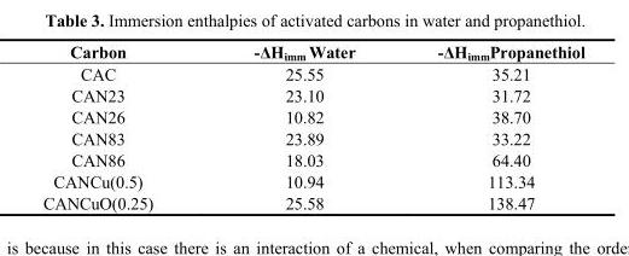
<table><thead><tr><td>Carbon</td><td>-ΔH<sub>imm</sub> Water</td><td>-ΔH<sub>imm</sub>Propanethiol</td></tr></thead><tbody><tr><td>CAC</td><td>25.55</td><td>35.21</td></tr><tr><td>CAN23</td><td>23.10</td><td>31.72</td></tr><tr><td>CAN26</td><td>10.82</td><td>38.70</td></tr><tr><td>CAN83</td><td>23.89</td><td>33.22</td></tr><tr><td>CAN86</td><td>18.03</td><td>64.40</td></tr><tr><td>CANCu(0.5)</td><td>10.94</td><td>113.34</td></tr><tr><td>CANCuO(0.25)</td><td>25.58</td><td>138.47</td></tr></tbody></table>